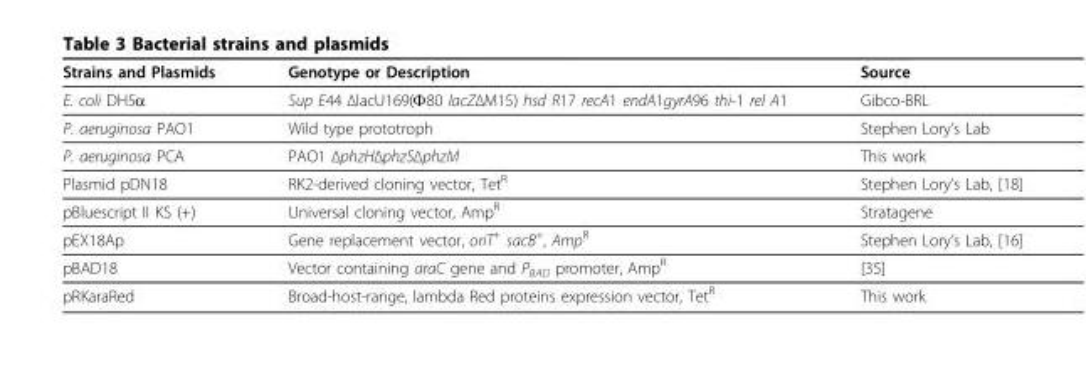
<table><thead><tr><td>Strains and Plasmids</td><td>Genotype or Description</td><td>Source</td></tr></thead><tbody><tr><td>E. coli DH5α</td><td>Sup E44 ΔlacU169(Φ80 lacZΔM15) hsd R17 recA1 endA1gyrA96 thi-1 rel A1</td><td>Gibco-BRL</td></tr><tr><td>P. aeruginosa PAO1</td><td>Wild type prototroph</td><td>Stephen Lory’s Lab</td></tr><tr><td>P. aeruginosa PCA</td><td>PAO1 ΔphzHΔphzSΔphzM</td><td>This work</td></tr><tr><td>Plasmid pDN18</td><td>RK2-derived cloning vector, Tet<sup>R</sup></td><td>Stephen Lory’s Lab, [18]</td></tr><tr><td>pBluescript II KS (+)</td><td>Universal cloning vector, Amp<sup>R</sup></td><td>Stratagene</td></tr><tr><td>pEX18Ap</td><td>Gene replacement vector, oriT<sup>+</sup> sacB<sup>+</sup>, Amp<sup>R</sup></td><td>Stephen Lory’s Lab, [16]</td></tr><tr><td>pBAD18</td><td>Vector containing araC gene and P<sub>BAD</sub> promoter, Amp<sup>R</sup></td><td>[35]</td></tr><tr><td>pRKaraRed</td><td>Broad-host-range, lambda Red proteins expression vector, Tet<sup>R</sup></td><td>This work</td></tr></tbody></table>